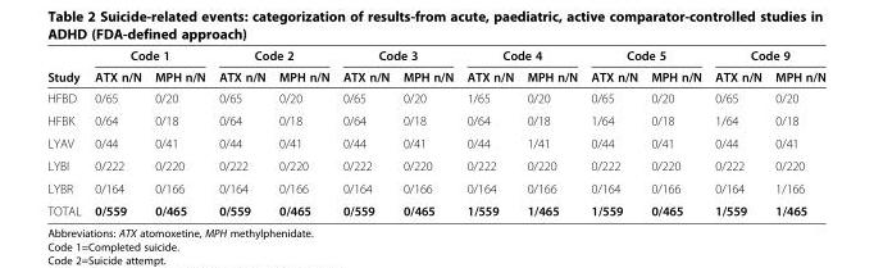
<table><thead><tr><td rowspan="2">Study</td><td colspan="2">Code 1</td><td colspan="2">Code 2</td><td colspan="2">Code 3</td><td colspan="2">Code 4</td><td colspan="2">Code 5</td><td colspan="2">Code 9</td></tr><tr><td>ATX n/N</td><td>MPH n/N</td><td>ATX n/N</td><td>MPH n/N</td><td>ATX n/N</td><td>MPH n/N</td><td>ATX n/N</td><td>MPH n/N</td><td>ATX n/N</td><td>MPH n/N</td><td>ATX n/N</td><td>MPH n/N</td></tr></thead><tbody><tr><td>HFBD</td><td>0/65</td><td>0/20</td><td>0/65</td><td>0/20</td><td>0/65</td><td>0/20</td><td>1/65</td><td>0/20</td><td>0/65</td><td>0/20</td><td>0/65</td><td>0/20</td></tr><tr><td>HFBK</td><td>0/64</td><td>0/18</td><td>0/64</td><td>0/18</td><td>0/64</td><td>0/18</td><td>0/64</td><td>0/18</td><td>1/64</td><td>0/18</td><td>1/64</td><td>0/18</td></tr><tr><td>LYAV</td><td>0/44</td><td>0/41</td><td>0/44</td><td>0/41</td><td>0/44</td><td>0/41</td><td>0/44</td><td>1/41</td><td>0/44</td><td>0/41</td><td>0/44</td><td>0/41</td></tr><tr><td>LYBI</td><td>0/222</td><td>0/220</td><td>0/222</td><td>0/220</td><td>0/222</td><td>0/220</td><td>0/222</td><td>0/220</td><td>0/222</td><td>0/220</td><td>0/222</td><td>0/220</td></tr><tr><td>LYBR</td><td>0/164</td><td>0/166</td><td>0/164</td><td>0/166</td><td>0/164</td><td>0/166</td><td>0/164</td><td>0/166</td><td>0/164</td><td>0/166</td><td>0/164</td><td>1/166</td></tr><tr><td>TOTAL</td><td>0/559</td><td>0/465</td><td>0/559</td><td>0/465</td><td>0/559</td><td>0/465</td><td>1/559</td><td>1/465</td><td>1/559</td><td>0/465</td><td>1/559</td><td>1/465</td></tr></tbody></table>